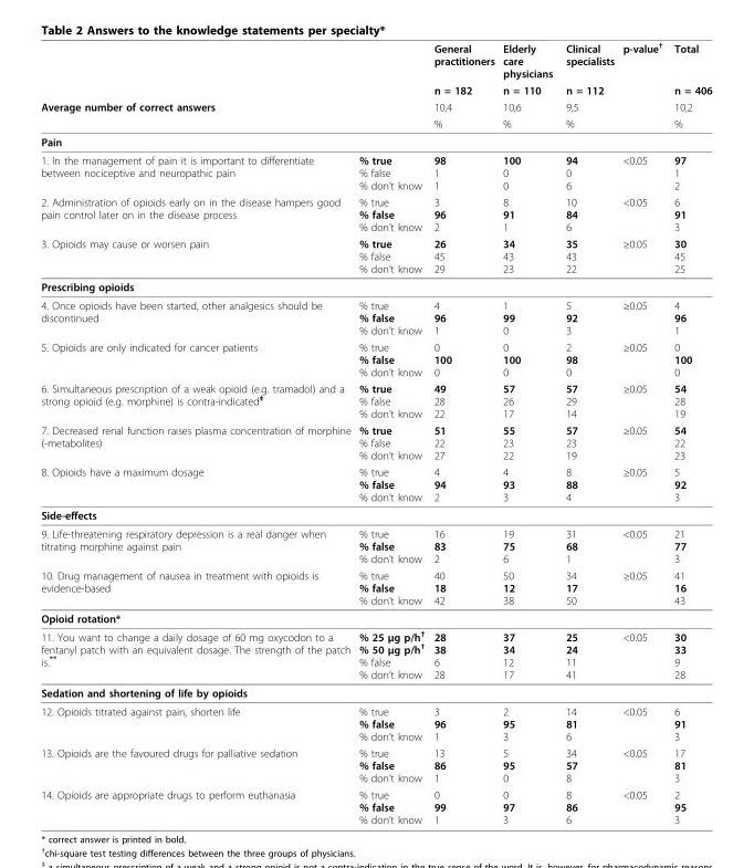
<table><thead><tr><td rowspan="4">Average number of correct answers</td><td rowspan="4"></td><td rowspan="4">General practitioners n = 182 10,4 %</td><td rowspan="4">Elderly care physicians n = 110 10,6 %</td><td rowspan="4">Clinical specialists n = 112 9,5 %</td><td rowspan="4">p-value†</td><td rowspan="4">Total n = 406 10,2 %</td></tr><tr></tr><tr></tr><tr></tr></thead><tbody><tr><td colspan="7">Pain</td></tr><tr><td>1. In the management of pain it is important to differentiate between nociceptive and neuropathic pain</td><td>% true % false % don’t know</td><td>98 1 1</td><td>100 0 0</td><td>94 0 6</td><td>&lt;0.05</td><td>97 1 2</td></tr><tr><td>2. Administration of opioids early on in the disease hampers good pain control later on in the disease process</td><td>% true % false % don’t know</td><td>3 96 2</td><td>8 91 1</td><td>10 84 6</td><td>&lt;0.05</td><td>6 91 3</td></tr><tr><td>3. Opioids may cause or worsen pain</td><td>% true % false % don’t know</td><td>26 45 29</td><td>34 43 23</td><td>35 43 22</td><td>≥0.05</td><td>30 45 25</td></tr><tr><td colspan="7">Prescribing opioids</td></tr><tr><td>4. Once opioids have been started, other analgesics should be discontinued</td><td>% true % false % don’t know</td><td>4 96 1</td><td>1 99 0</td><td>5 92 3</td><td>≥0.05</td><td>4 96 1</td></tr><tr><td>5. Opioids are only indicated for cancer patients</td><td>% true % false % don’t know</td><td>0 100 0</td><td>0 100 0</td><td>2 98 0</td><td>≥0.05</td><td>0 100 0</td></tr><tr><td>6. Simultaneous prescription of a weak opioid (e.g. tramadol) and a strong opioid (e.g. morphine) is contra-indicated<sup>‡</sup></td><td>% true % false % don’t know</td><td>49 28 22</td><td>57 26 17</td><td>57 29 14</td><td>≥0.05</td><td>54 28 19</td></tr><tr><td>7. Decreased renal function raises plasma concentration of morphine (-metabolites)</td><td>% true % false % don’t know</td><td>51 22 27</td><td>55 23 22</td><td>57 23 19</td><td>≥0.05</td><td>54 22 23</td></tr><tr><td>8. Opioids have a maximum dosage</td><td>% true % false % don’t know</td><td>4 94 2</td><td>4 93 3</td><td>8 88 4</td><td>≥0.05</td><td>5 92 3</td></tr><tr><td colspan="7">Side-effects</td></tr><tr><td>9. Life-threatening respiratory depression is a real danger when titrating morphine against pain</td><td>% true % false % don’t know</td><td>16 83 2</td><td>19 75 6</td><td>31 68 1</td><td>&lt;0.05</td><td>21 77 3</td></tr><tr><td>10. Drug management of nausea in treatment with opioids is evidence-based</td><td>% true % false % don’t know</td><td>40 18 42</td><td>50 12 38</td><td>34 17 50</td><td>≥0.05</td><td>41 16 43</td></tr><tr><td colspan="7">Opioid rotation*</td></tr><tr><td>11. You want to change a daily dosage of 60 mg oxycodon to a fentanyl patch with an equivalent dosage. The strength of the patch is.**</td><td>% 25 μg p/h<sup>†</sup> % 50 μg p/h<sup>†</sup> % false % don’t know</td><td>28 38 6 28</td><td>37 34 12 17</td><td>25 24 11 41</td><td>&lt;0.05</td><td>30 33 9 28</td></tr><tr><td colspan="7">Sedation and shortening of life by opioids</td></tr><tr><td>12. Opioids titrated against pain, shorten life</td><td>% true % false % don’t know</td><td>3 96 1</td><td>2 95 3</td><td>14 81 6</td><td>&lt;0.05</td><td>6 91 3</td></tr><tr><td>13. Opioids are the favoured drugs for palliative sedation</td><td>% true % false % don’t know</td><td>13 86 1</td><td>5 95 0</td><td>34 57 8</td><td>&lt;0.05</td><td>17 81 3</td></tr><tr><td>14. Opioids are appropriate drugs to perform euthanasia</td><td>% true % false % don’t know</td><td>0 99 1</td><td>0 97 3</td><td>8 86 6</td><td>&lt;0.05</td><td>2 95 3</td></tr></tbody></table>